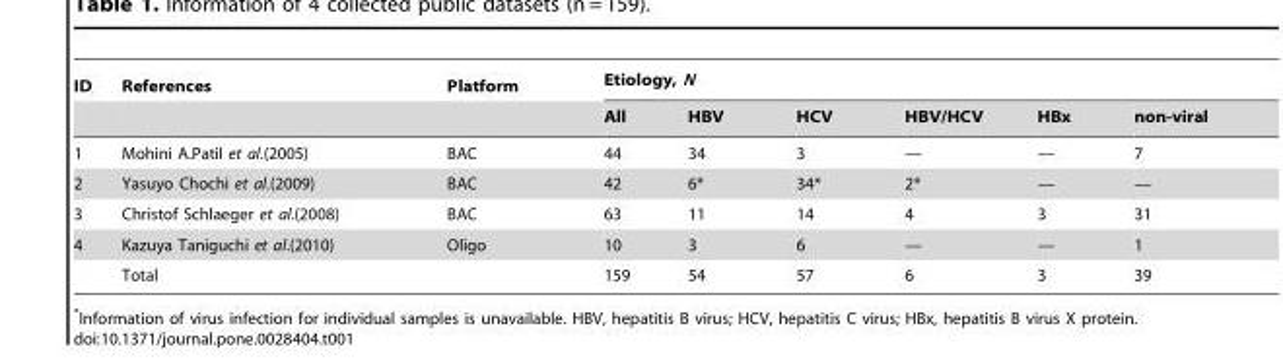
<table><thead><tr><td rowspan="2">ID</td><td rowspan="2">References</td><td rowspan="2">Platform</td><td colspan="6">Etiology, N</td></tr><tr><td>All</td><td>HBV</td><td>HCV</td><td>HBV/HCV</td><td>HBx</td><td>non-viral</td></tr></thead><tbody><tr><td>1</td><td>Mohini A.Patil et al.(2005)</td><td>BAC</td><td>44</td><td>34</td><td>3</td><td>—</td><td>—</td><td>7</td></tr><tr><td>2</td><td>Yasuyo Chochi et al.(2009)</td><td>BAC</td><td>42</td><td>6*</td><td>34*</td><td>2*</td><td>—</td><td>—</td></tr><tr><td>3</td><td>Christof Schlaeger et al.(2008)</td><td>BAC</td><td>63</td><td>11</td><td>14</td><td>4</td><td>3</td><td>31</td></tr><tr><td rowspan="2">4</td><td>Kazuya Taniguchi et al.(2010)</td><td>Oligo</td><td>10</td><td>3</td><td>6</td><td>—</td><td>—</td><td>1</td></tr><tr><td>Total</td><td></td><td>159</td><td>54</td><td>57</td><td>6</td><td>3</td><td>39</td></tr></tbody></table>